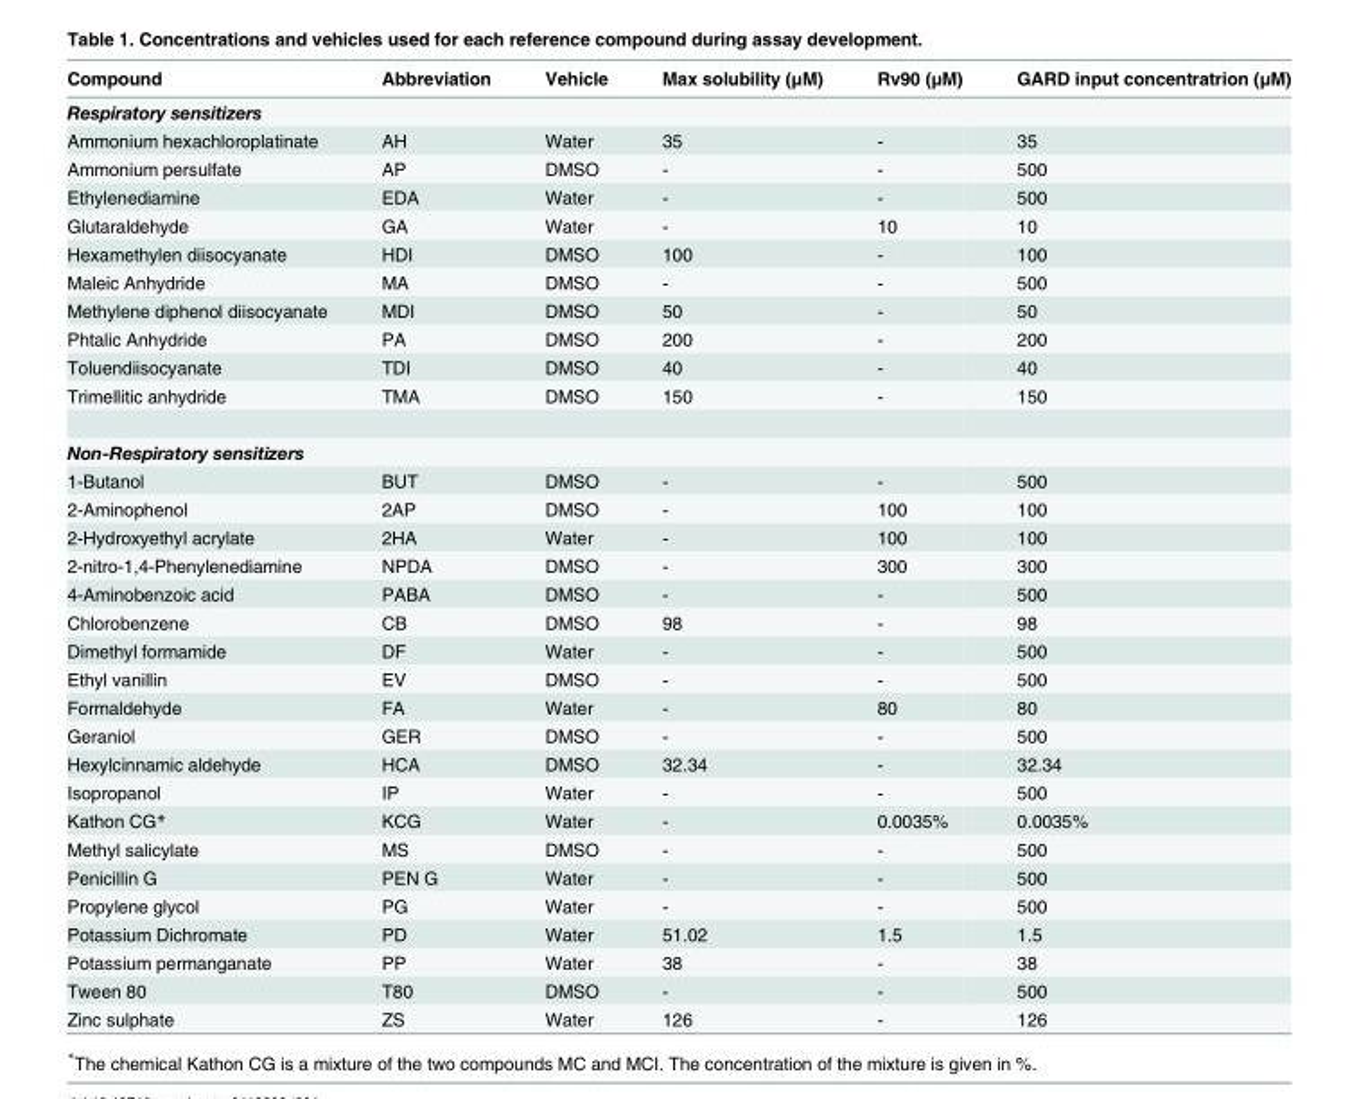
<table><thead><tr><td>Compound</td><td>Abbreviation</td><td>Vehicle</td><td>Max solubility (μM)</td><td>Rv90 (μM)</td><td>GARD input concentratrion (μM)</td></tr></thead><tbody><tr><td colspan="6">Respiratory sensitizers</td></tr><tr><td>Ammonium hexachloroplatinate</td><td>AH</td><td>Water</td><td>35</td><td>-</td><td>35</td></tr><tr><td>Ammonium persulfate</td><td>AP</td><td>DMSO</td><td>-</td><td>-</td><td>500</td></tr><tr><td>Ethylenediamine</td><td>EDA</td><td>Water</td><td>-</td><td>-</td><td>500</td></tr><tr><td>Glutaraldehyde</td><td>GA</td><td>Water</td><td>-</td><td>10</td><td>10</td></tr><tr><td>Hexamethylen diisocyanate</td><td>HDI</td><td>DMSO</td><td>100</td><td>-</td><td>100</td></tr><tr><td>Maleic Anhydride</td><td>MA</td><td>DMSO</td><td>-</td><td>-</td><td>500</td></tr><tr><td>Methylene diphenol diisocyanate</td><td>MDI</td><td>DMSO</td><td>50</td><td>-</td><td>50</td></tr><tr><td>Phtalic Anhydride</td><td>PA</td><td>DMSO</td><td>200</td><td>-</td><td>200</td></tr><tr><td>Toluendiisocyanate</td><td>TDI</td><td>DMSO</td><td>40</td><td>-</td><td>40</td></tr><tr><td>Trimellitic anhydride</td><td>TMA</td><td>DMSO</td><td>150</td><td>-</td><td>150</td></tr><tr><td colspan="6">Non-Respiratory sensitizers</td></tr><tr><td>1-Butanol</td><td>BUT</td><td>DMSO</td><td>-</td><td>-</td><td>500</td></tr><tr><td>2-Aminophenol</td><td>2AP</td><td>DMSO</td><td>-</td><td>100</td><td>100</td></tr><tr><td>2-Hydroxyethyl acrylate</td><td>2HA</td><td>Water</td><td>-</td><td>100</td><td>100</td></tr><tr><td>2-nitro-1,4-Phenylenediamine</td><td>NPDA</td><td>DMSO</td><td>-</td><td>300</td><td>300</td></tr><tr><td>4-Aminobenzoic acid</td><td>PABA</td><td>DMSO</td><td>-</td><td>-</td><td>500</td></tr><tr><td>Chlorobenzene</td><td>CB</td><td>DMSO</td><td>98</td><td>-</td><td>98</td></tr><tr><td>Dimethyl formamide</td><td>DF</td><td>Water</td><td>-</td><td>-</td><td>500</td></tr><tr><td>Ethyl vanillin</td><td>EV</td><td>DMSO</td><td>-</td><td>-</td><td>500</td></tr><tr><td>Formaldehyde</td><td>FA</td><td>Water</td><td>-</td><td>80</td><td>80</td></tr><tr><td>Geraniol</td><td>GER</td><td>DMSO</td><td>-</td><td>-</td><td>500</td></tr><tr><td>Hexylcinnamic aldehyde</td><td>HCA</td><td>DMSO</td><td>32.34</td><td>-</td><td>32.34</td></tr><tr><td>Isopropanol</td><td>IP</td><td>Water</td><td>-</td><td>-</td><td>500</td></tr><tr><td>Kathon CG*</td><td>KCG</td><td>Water</td><td>-</td><td>0.0035%</td><td>0.0035%</td></tr><tr><td>Methyl salicylate</td><td>MS</td><td>DMSO</td><td>-</td><td>-</td><td>500</td></tr><tr><td>Penicillin G</td><td>PEN G</td><td>Water</td><td>-</td><td>-</td><td>500</td></tr><tr><td>Propylene glycol</td><td>PG</td><td>Water</td><td>-</td><td>-</td><td>500</td></tr><tr><td>Potassium Dichromate</td><td>PD</td><td>Water</td><td>51.02</td><td>1.5</td><td>1.5</td></tr><tr><td>Potassium permanganate</td><td>PP</td><td>Water</td><td>38</td><td>-</td><td>38</td></tr><tr><td>Tween 80</td><td>T80</td><td>DMSO</td><td>-</td><td>-</td><td>500</td></tr><tr><td>Zinc sulphate</td><td>ZS</td><td>Water</td><td>126</td><td>-</td><td>126</td></tr></tbody></table>